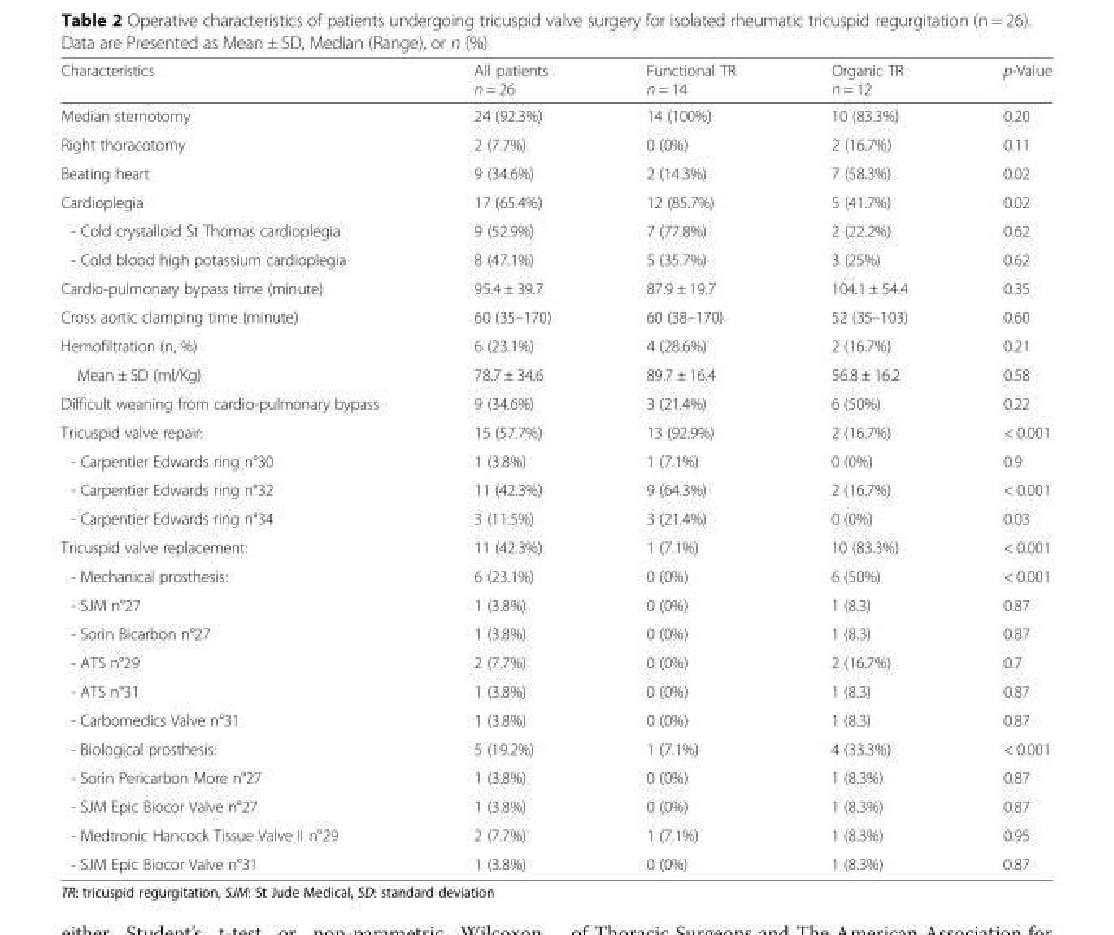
<table><thead><tr><td>Characteristics</td><td>All patients n = 26</td><td>Functional TR n = 14</td><td>Organic TR n = 12</td><td>p-Value</td></tr></thead><tbody><tr><td>Median sternotomy</td><td>24 (92.3%)</td><td>14 (100%)</td><td>10 (83.3%)</td><td>0.20</td></tr><tr><td>Right thoracotomy</td><td>2 (7.7%)</td><td>0 (0%)</td><td>2 (16.7%)</td><td>0.11</td></tr><tr><td>Beating heart</td><td>9 (34.6%)</td><td>2 (14.3%)</td><td>7 (58.3%)</td><td>0.02</td></tr><tr><td>Cardioplegia</td><td>17 (65.4%)</td><td>12 (85.7%)</td><td>5 (41.7%)</td><td>0.02</td></tr><tr><td>- Cold crystalloid St Thomas cardioplegia</td><td>9 (52.9%)</td><td>7 (77.8%)</td><td>2 (22.2%)</td><td>0.62</td></tr><tr><td>- Cold blood high potassium cardioplegia</td><td>8 (47.1%)</td><td>5 (35.7%)</td><td>3 (25%)</td><td>0.62</td></tr><tr><td>Cardio-pulmonary bypass time (minute)</td><td>95.4 ± 39.7</td><td>87.9 ± 19.7</td><td>104.1 ± 54.4</td><td>0.35</td></tr><tr><td>Cross aortic clamping time (minute)</td><td>60 (35–170)</td><td>60 (38–170)</td><td>52 (35–103)</td><td>0.60</td></tr><tr><td>Hemofiltration (n, %)</td><td>6 (23.1%)</td><td>4 (28.6%)</td><td>2 (16.7%)</td><td>0.21</td></tr><tr><td>Mean ± SD (ml/Kg)</td><td>78.7 ± 34.6</td><td>89.7 ± 16.4</td><td>56.8 ± 16.2</td><td>0.58</td></tr><tr><td>Difficult weaning from cardio-pulmonary bypass</td><td>9 (34.6%)</td><td>3 (21.4%)</td><td>6 (50%)</td><td>0.22</td></tr><tr><td>Tricuspid valve repair:</td><td>15 (57.7%)</td><td>13 (92.9%)</td><td>2 (16.7%)</td><td>&lt; 0.001</td></tr><tr><td>- Carpentier Edwards ring n°30</td><td>1 (3.8%)</td><td>1 (7.1%)</td><td>0 (0%)</td><td>0.9</td></tr><tr><td>- Carpentier Edwards ring n°32</td><td>11 (42.3%)</td><td>9 (64.3%)</td><td>2 (16.7%)</td><td>&lt; 0.001</td></tr><tr><td>- Carpentier Edwards ring n°34</td><td>3 (11.5%)</td><td>3 (21.4%)</td><td>0 (0%)</td><td>0.03</td></tr><tr><td>Tricuspid valve replacement:</td><td>11 (42.3%)</td><td>1 (7.1%)</td><td>10 (83.3%)</td><td>&lt; 0.001</td></tr><tr><td>- Mechanical prosthesis:</td><td>6 (23.1%)</td><td>0 (0%)</td><td>6 (50%)</td><td>&lt; 0.001</td></tr><tr><td>- SJM n°27</td><td>1 (3.8%)</td><td>0 (0%)</td><td>1 (8.3)</td><td>0.87</td></tr><tr><td>- Sorin Bicarbon n°27</td><td>1 (3.8%)</td><td>0 (0%)</td><td>1 (8.3)</td><td>0.87</td></tr><tr><td>- ATS n°29</td><td>2 (7.7%)</td><td>0 (0%)</td><td>2 (16.7%)</td><td>0.7</td></tr><tr><td>- ATS n°31</td><td>1 (3.8%)</td><td>0 (0%)</td><td>1 (8.3)</td><td>0.87</td></tr><tr><td>- Carbomedics Valve n°31</td><td>1 (3.8%)</td><td>0 (0%)</td><td>1 (8.3)</td><td>0.87</td></tr><tr><td>- Biological prosthesis:</td><td>5 (19.2%)</td><td>1 (7.1%)</td><td>4 (33.3%)</td><td>&lt; 0.001</td></tr><tr><td>- Sorin Pericarbon More n°27</td><td>1 (3.8%)</td><td>0 (0%)</td><td>1 (8.3%)</td><td>0.87</td></tr><tr><td>- SJM Epic Biocor Valve n°27</td><td>1 (3.8%)</td><td>0 (0%)</td><td>1 (8.3%)</td><td>0.87</td></tr><tr><td>- Medtronic Hancock Tissue Valve II n°29</td><td>2 (7.7%)</td><td>1 (7.1%)</td><td>1 (8.3%)</td><td>0.95</td></tr><tr><td>- SJM Epic Biocor Valve n°31</td><td>1 (3.8%)</td><td>0 (0%)</td><td>1 (8.3%)</td><td>0.87</td></tr></tbody></table>